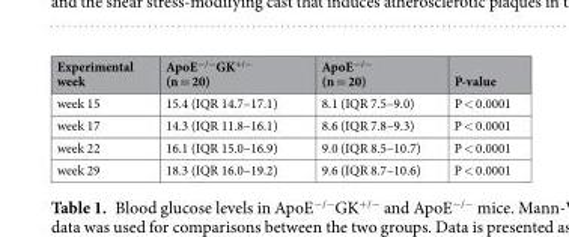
<table><thead><tr><td>Experimental week</td><td>ApoE<sup>−/−</sup>GK<sup>+/−</sup> (n = 20)</td><td>ApoE<sup>−/−</sup> (n = 20)</td><td>P-value</td></tr></thead><tbody><tr><td>week 15</td><td>15.4 (IQR 14.7–17.1)</td><td>8.1 (IQR 7.5–9.0)</td><td>P &lt; 0.0001</td></tr><tr><td>week 17</td><td>14.3 (IQR 11.8–16.1)</td><td>8.6 (IQR 7.8–9.3)</td><td>P &lt; 0.0001</td></tr><tr><td>week 22</td><td>16.1 (IQR 15.0–16.9)</td><td>9.0 (IQR 8.5–10.7)</td><td>P &lt; 0.0001</td></tr><tr><td>week 29</td><td>18.3 (IQR 16.0–19.2)</td><td>9.6 (IQR 8.7–10.6)</td><td>P &lt; 0.0001</td></tr></tbody></table>